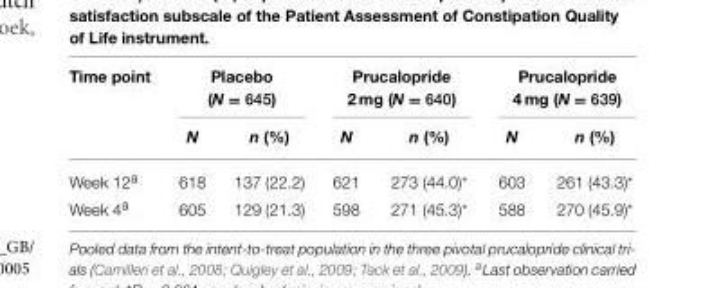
<table><thead><tr><td rowspan="2">Time point</td><td colspan="2">Placebo (N = 645)</td><td colspan="2">Prucalopride 2 mg (N = 640)</td><td colspan="2">Prucalopride 4 mg (N = 639)</td></tr><tr><td>N</td><td>n (%)</td><td>N</td><td>n (%)</td><td>N</td><td>n (%)</td></tr></thead><tbody><tr><td>Week 12<sup>a</sup></td><td>618</td><td>137 (22.2)</td><td>621</td><td>273 (44.0)*</td><td>603</td><td>261 (43.3)*</td></tr><tr><td>Week 4<sup>a</sup></td><td>605</td><td>129 (21.3)</td><td>598</td><td>271 (45.3)*</td><td>588</td><td>270 (45.9)*</td></tr></tbody></table>